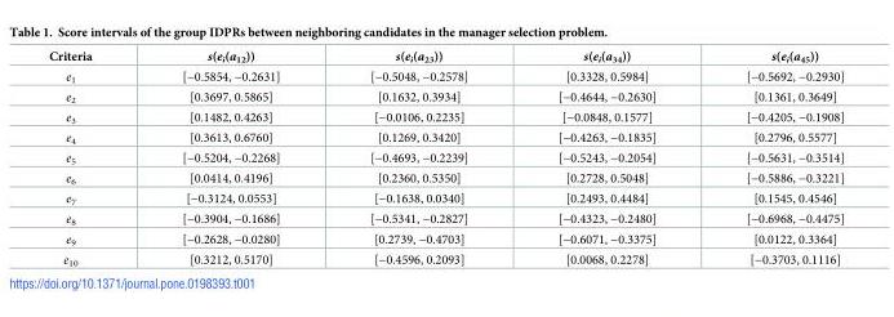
<table><thead><tr><td>Criteria</td><td>s(e<sub>i</sub>(a<sub>12</sub>))</td><td>s(e<sub>i</sub>(a<sub>23</sub>))</td><td>s(e<sub>i</sub>(a<sub>34</sub>))</td><td>s(e<sub>i</sub>(a<sub>45</sub>))</td></tr></thead><tbody><tr><td>e<sub>1</sub></td><td>[−0.5854, −0.2631]</td><td>[−0.5048, −0.2578]</td><td>[0.3328, 0.5984]</td><td>[−0.5692, −0.2930]</td></tr><tr><td>e<sub>2</sub></td><td>[0.3697, 0.5865]</td><td>[0.1632, 0.3934]</td><td>[−0.4644, −0.2630]</td><td>[0.1361, 0.3649]</td></tr><tr><td>e<sub>3</sub></td><td>[0.1482, 0.4263]</td><td>[−0.0106, 0.2235]</td><td>[−0.0848, 0.1577]</td><td>[−0.4205, −0.1908]</td></tr><tr><td>e<sub>4</sub></td><td>[0.3613, 0.6760]</td><td>[0.1269, 0.3420]</td><td>[−0.4263, −0.1835]</td><td>[0.2796, 0.5577]</td></tr><tr><td>e<sub>5</sub></td><td>[−0.5204, −0.2268]</td><td>[−0.4693, −0.2239]</td><td>[−0.5243, −0.2054]</td><td>[−0.5631, −0.3514]</td></tr><tr><td>e<sub>6</sub></td><td>[0.0414, 0.4196]</td><td>[0.2360, 0.5350]</td><td>[0.2728, 0.5048]</td><td>[−0.5886, −0.3221]</td></tr><tr><td>e<sub>7</sub></td><td>[−0.3124, 0.0553]</td><td>[−0.1638, 0.0340]</td><td>[0.2493, 0.4484]</td><td>[0.1545, 0.4546]</td></tr><tr><td>e<sub>8</sub></td><td>[−0.3904, −0.1686]</td><td>[−0.5341, −0.2827]</td><td>[−0.4323, −0.2480]</td><td>[−0.6968, −0.4475]</td></tr><tr><td>e<sub>9</sub></td><td>[−0.2628, −0.0280]</td><td>[0.2739, −0.4703]</td><td>[−0.6071, −0.3375]</td><td>[0.0122, 0.3364]</td></tr><tr><td>e<sub>10</sub></td><td>[0.3212, 0.5170]</td><td>[−0.4596, 0.2093]</td><td>[0.0068, 0.2278]</td><td>[−0.3703, 0.1116]</td></tr></tbody></table>